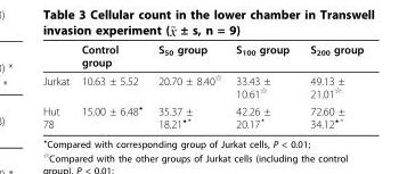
<table><thead><tr><td></td><td>Control group</td><td>S<sub>50</sub> group</td><td>S<sub>100</sub> group</td><td>S<sub>200</sub> group</td></tr></thead><tbody><tr><td>Jurkat</td><td>10.63 ± 5.52</td><td>20.70 ± 8.40<sup>✩</sup></td><td>33.43 ± 10.61<sup>✩</sup></td><td>49.13 ± 21.01<sup>✩</sup></td></tr><tr><td>Hut 78</td><td>15.00 ± 6.48<sup>⋆</sup></td><td>35.37 ± 18.21<sup>⋆▴</sup></td><td>42.26 ± 20.17<sup>▴</sup></td><td>72.60 ± 34.12<sup>⋆▵</sup></td></tr></tbody></table>